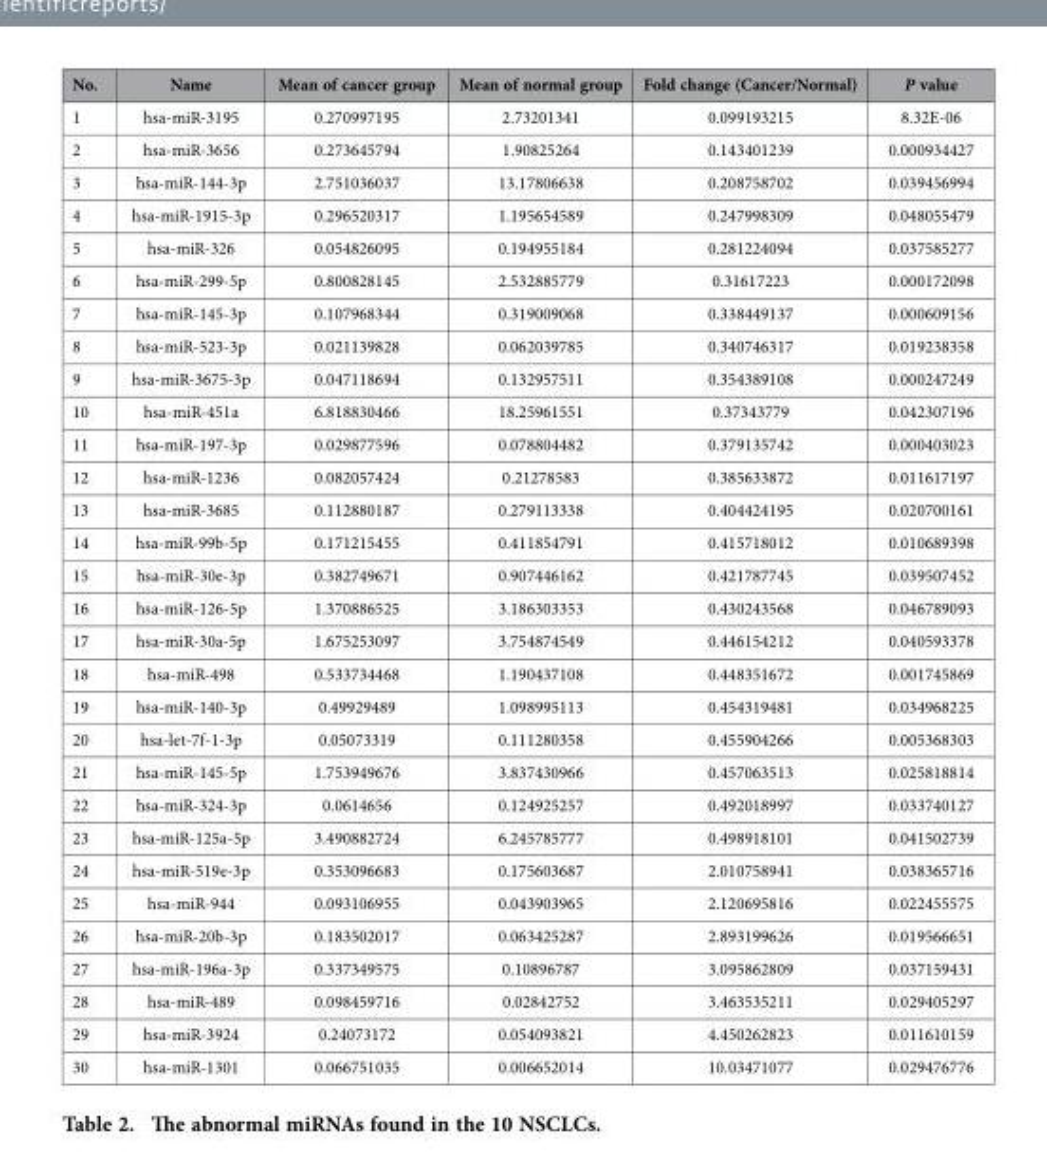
<table><thead><tr><td>No.</td><td>Name</td><td>Mean of cancer group</td><td>Mean of normal group</td><td>Fold change (Cancer/Normal)</td><td>P value</td></tr></thead><tbody><tr><td>1</td><td>hsa-miR-3195</td><td>0.270997195</td><td>2.73201341</td><td>0.099193215</td><td>8.32E-06</td></tr><tr><td>2</td><td>hsa-miR-3656</td><td>0.273645794</td><td>1.90825264</td><td>0.143401239</td><td>0.000934427</td></tr><tr><td>3</td><td>hsa-miR-144-3p</td><td>2.751036037</td><td>13.17806638</td><td>0.208758702</td><td>0.039456994</td></tr><tr><td>4</td><td>hsa-miR-1915-3p</td><td>0.296520317</td><td>1.195654589</td><td>0.247998309</td><td>0.048055479</td></tr><tr><td>5</td><td>hsa-miR-326</td><td>0.054826095</td><td>0.194955184</td><td>0.281224094</td><td>0.037585277</td></tr><tr><td>6</td><td>hsa-miR-299-5p</td><td>0.800828145</td><td>2.532885779</td><td>0.31617223</td><td>0.000172098</td></tr><tr><td>7</td><td>hsa-miR-145-3p</td><td>0.107968344</td><td>0.319009068</td><td>0.338449137</td><td>0.000609156</td></tr><tr><td>8</td><td>hsa-miR-523-3p</td><td>0.021139828</td><td>0.062039785</td><td>0.340746317</td><td>0.019238358</td></tr><tr><td>9</td><td>hsa-miR-3675-3p</td><td>0.047118694</td><td>0.132957511</td><td>0.354389108</td><td>0.000247249</td></tr><tr><td>10</td><td>hsa-miR-451a</td><td>6.818830466</td><td>18.25961551</td><td>0.37343779</td><td>0.042307196</td></tr><tr><td>11</td><td>hsa-miR-197-3p</td><td>0.029877596</td><td>0.078804482</td><td>0.379135742</td><td>0.000403023</td></tr><tr><td>12</td><td>hsa-miR-1236</td><td>0.082057424</td><td>0.21278583</td><td>0.385633872</td><td>0.011617197</td></tr><tr><td>13</td><td>hsa-miR-3685</td><td>0.112880187</td><td>0.279113338</td><td>0.404424195</td><td>0.020700161</td></tr><tr><td>14</td><td>hsa-miR-99b-5p</td><td>0.171215455</td><td>0.411854791</td><td>0.415718012</td><td>0.010689398</td></tr><tr><td>15</td><td>hsa-miR-30e-3p</td><td>0.382749671</td><td>0.907446162</td><td>0.421787745</td><td>0.039507452</td></tr><tr><td>16</td><td>hsa-miR-126-5p</td><td>1.370886525</td><td>3.186303353</td><td>0.430243568</td><td>0.046789093</td></tr><tr><td>17</td><td>hsa-miR-30a-5p</td><td>1.675253097</td><td>3.754874549</td><td>0.446154212</td><td>0.040593378</td></tr><tr><td>18</td><td>hsa-miR-498</td><td>0.533734468</td><td>1.190437108</td><td>0.448351672</td><td>0.001745869</td></tr><tr><td>19</td><td>hsa-miR-140-3p</td><td>0.49929489</td><td>1.098995113</td><td>0.454319481</td><td>0.034968225</td></tr><tr><td>20</td><td>hsa-let-7f-1-3p</td><td>0.05073319</td><td>0.111280358</td><td>0.455904266</td><td>0.005368303</td></tr><tr><td>21</td><td>hsa-miR-145-5p</td><td>1.753949676</td><td>3.837430966</td><td>0.457063513</td><td>0.025818814</td></tr><tr><td>22</td><td>hsa-miR-324-3p</td><td>0.0614656</td><td>0.124925257</td><td>0.492018997</td><td>0.033740127</td></tr><tr><td>23</td><td>hsa-miR-125a-5p</td><td>3.490882724</td><td>6.245785777</td><td>0.498918101</td><td>0.041502739</td></tr><tr><td>24</td><td>hsa-miR-519e-3p</td><td>0.353096683</td><td>0.175603687</td><td>2.010758941</td><td>0.038365716</td></tr><tr><td>25</td><td>hsa-miR-944</td><td>0.093106955</td><td>0.043903965</td><td>2.120695816</td><td>0.022455575</td></tr><tr><td>26</td><td>hsa-miR-20b-3p</td><td>0.183502017</td><td>0.063425287</td><td>2.893199626</td><td>0.019566651</td></tr><tr><td>27</td><td>hsa-miR-196a-3p</td><td>0.337349575</td><td>0.10896787</td><td>3.095862809</td><td>0.037159431</td></tr><tr><td>28</td><td>hsa-miR-489</td><td>0.098459716</td><td>0.02842752</td><td>3.463535211</td><td>0.029405297</td></tr><tr><td>29</td><td>hsa-miR-3924</td><td>0.24073172</td><td>0.054093821</td><td>4.450262823</td><td>0.011610159</td></tr><tr><td>30</td><td>hsa-miR-1301</td><td>0.066751035</td><td>0.006652014</td><td>10.03471077</td><td>0.029476776</td></tr></tbody></table>